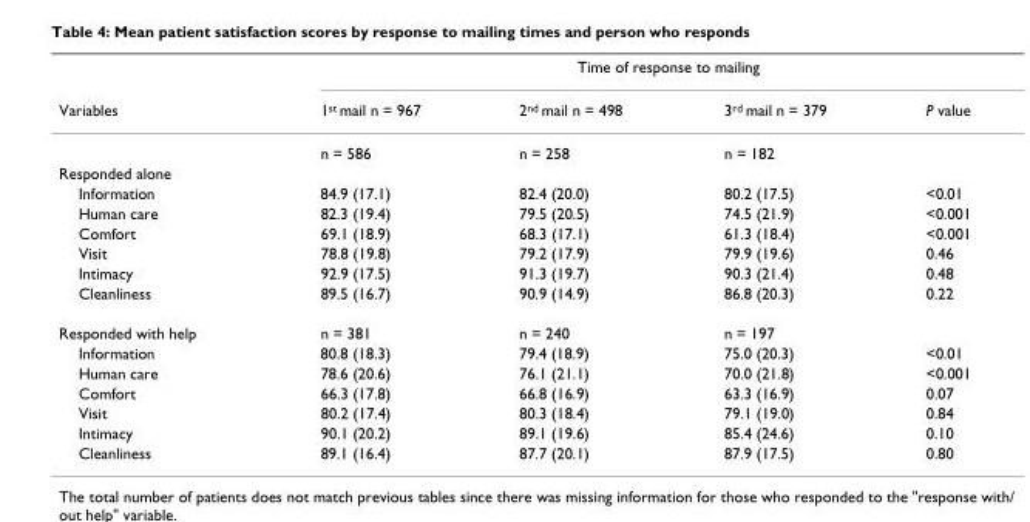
<table><thead><tr><td rowspan="2">Variables</td><td colspan="4">Time of response to mailing</td></tr><tr><td>1st mail n = 967</td><td>2nd mail n = 498</td><td>3rd mail n = 379</td><td>P value</td></tr></thead><tbody><tr><td></td><td>n = 586</td><td>n = 258</td><td>n = 182</td><td></td></tr><tr><td colspan="5">Responded alone</td></tr><tr><td>Information</td><td>84.9 (17.1)</td><td>82.4 (20.0)</td><td>80.2 (17.5)</td><td>&lt;0.01</td></tr><tr><td>Human care</td><td>82.3 (19.4)</td><td>79.5 (20.5)</td><td>74.5 (21.9)</td><td>&lt;0.001</td></tr><tr><td>Comfort</td><td>69.1 (18.9)</td><td>68.3 (17.1)</td><td>61.3 (18.4)</td><td>&lt;0.001</td></tr><tr><td>Visit</td><td>78.8 (19.8)</td><td>79.2 (17.9)</td><td>79.9 (19.6)</td><td>0.46</td></tr><tr><td>Intimacy</td><td>92.9 (17.5)</td><td>91.3 (19.7)</td><td>90.3 (21.4)</td><td>0.48</td></tr><tr><td>Cleanliness</td><td>89.5 (16.7)</td><td>90.9 (14.9)</td><td>86.8 (20.3)</td><td>0.22</td></tr><tr><td>Responded with help</td><td>n = 381</td><td>n = 240</td><td>n = 197</td><td></td></tr><tr><td>Information</td><td>80.8 (18.3)</td><td>79.4 (18.9)</td><td>75.0 (20.3)</td><td>&lt;0.01</td></tr><tr><td>Human care</td><td>78.6 (20.6)</td><td>76.1 (21.1)</td><td>70.0 (21.8)</td><td>&lt;0.001</td></tr><tr><td>Comfort</td><td>66.3 (17.8)</td><td>66.8 (16.9)</td><td>63.3 (16.9)</td><td>0.07</td></tr><tr><td>Visit</td><td>80.2 (17.4)</td><td>80.3 (18.4)</td><td>79.1 (19.0)</td><td>0.84</td></tr><tr><td>Intimacy</td><td>90.1 (20.2)</td><td>89.1 (19.6)</td><td>85.4 (24.6)</td><td>0.10</td></tr><tr><td>Cleanliness</td><td>89.1 (16.4)</td><td>87.7 (20.1)</td><td>87.9 (17.5)</td><td>0.80</td></tr></tbody></table>